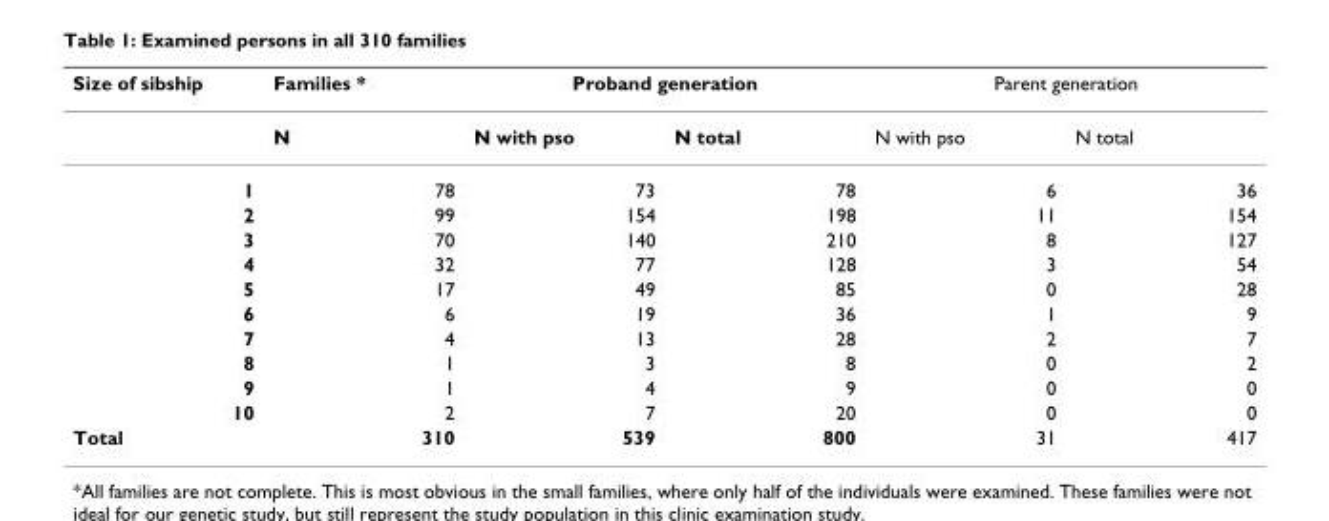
<table><thead><tr><td rowspan="2">Size of sibship</td><td rowspan="2">Families * N</td><td colspan="2">Proband generation</td><td colspan="2">Parent generation</td></tr><tr><td>N with pso</td><td>N total</td><td>N with pso</td><td>N total</td></tr></thead><tbody><tr><td>1</td><td>78</td><td>73</td><td>78</td><td>6</td><td>36</td></tr><tr><td>2</td><td>99</td><td>154</td><td>198</td><td>11</td><td>154</td></tr><tr><td>3</td><td>70</td><td>140</td><td>210</td><td>8</td><td>127</td></tr><tr><td>4</td><td>32</td><td>77</td><td>128</td><td>3</td><td>54</td></tr><tr><td>5</td><td>17</td><td>49</td><td>85</td><td>0</td><td>28</td></tr><tr><td>6</td><td>6</td><td>19</td><td>36</td><td>1</td><td>9</td></tr><tr><td>7</td><td>4</td><td>13</td><td>28</td><td>2</td><td>7</td></tr><tr><td>8</td><td>1</td><td>3</td><td>8</td><td>0</td><td>2</td></tr><tr><td>9</td><td>1</td><td>4</td><td>9</td><td>0</td><td>0</td></tr><tr><td>10</td><td>2</td><td>7</td><td>20</td><td>0</td><td>0</td></tr><tr><td>Total</td><td>310</td><td>539</td><td>800</td><td>31</td><td>417</td></tr></tbody></table>